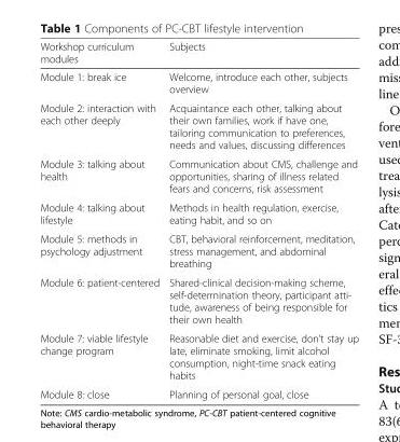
<table><thead><tr><td>Workshop curriculum modules</td><td>Subjects</td></tr></thead><tbody><tr><td>Module 1: break ice</td><td>Welcome, introduce each other, subjects overview</td></tr><tr><td>Module 2: interaction with each other deeply</td><td>Acquaintance each other, talking about their own families, work if have one, tailoring communication to preferences, needs and values, discussing differences</td></tr><tr><td>Module 3: talking about health</td><td>Communication about CMS, challenge and opportunities, sharing of illness related fears and concerns, risk assessment</td></tr><tr><td>Module 4: talking about lifestyle</td><td>Methods in health regulation, exercise, eating habit, and so on</td></tr><tr><td>Module 5: methods in psychology adjustment</td><td>CBT, behavioral reinforcement, meditation, stress management, and abdominal breathing</td></tr><tr><td>Module 6: patient-centered</td><td>Shared-clinical decision-making scheme, self-deterrnination theory, participant atti- tude, awareness of being responsible for their own health</td></tr><tr><td>Module 7: viable lifestyle change program</td><td>Reasonable diet and exercise, don’t stay up late, eliminate smoking, limit alcohol consumption, night-time snack eating habits</td></tr><tr><td>Module 8: close</td><td>Planning of personal goal, close</td></tr></tbody></table>